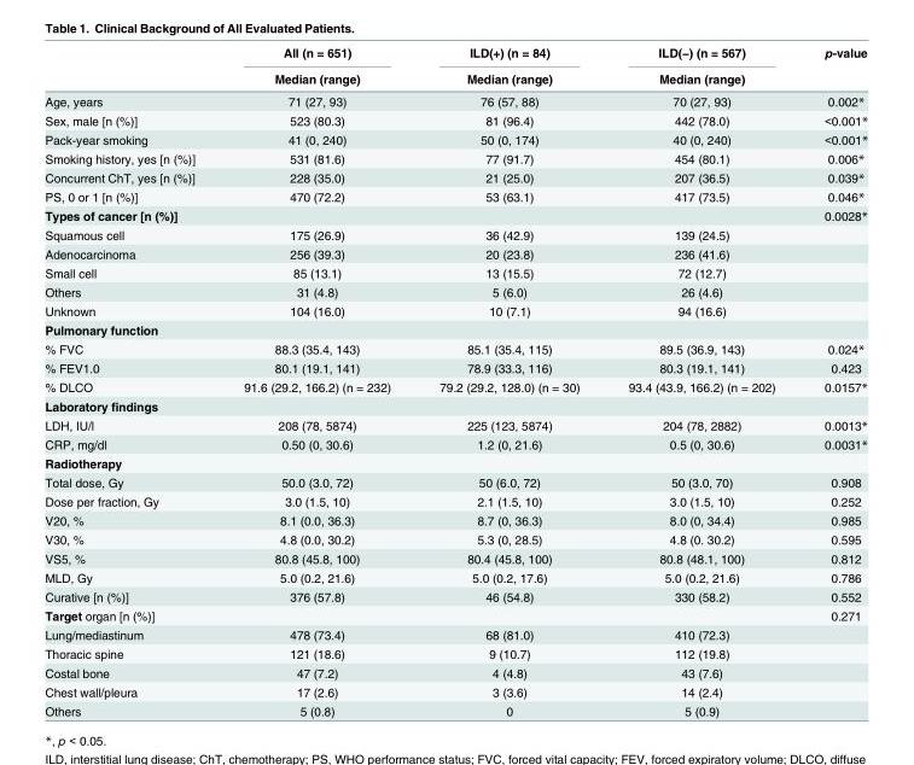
<table><thead><tr><td rowspan="2"></td><td rowspan="2">All (n = 651) Median (range)</td><td rowspan="2">ILD(+) (n = 84) Median (range)</td><td rowspan="2">ILD(−) (n = 567) Median (range)</td><td rowspan="2">p-value</td></tr><tr></tr></thead><tbody><tr><td>Age, years</td><td>71 (27, 93)</td><td>76 (57, 88)</td><td>70 (27, 93)</td><td>0.002*</td></tr><tr><td>Sex, male [n (%)]</td><td>523 (80.3)</td><td>81 (96.4)</td><td>442 (78.0)</td><td>&lt;0.001*</td></tr><tr><td>Pack-year smoking</td><td>41 (0, 240)</td><td>50 (0, 174)</td><td>40 (0, 240)</td><td>&lt;0.001*</td></tr><tr><td>Smoking history, yes [n (%)]</td><td>531 (81.6)</td><td>77 (91.7)</td><td>454 (80.1)</td><td>0.006*</td></tr><tr><td>Concurrent ChT, yes [n (%)]</td><td>228 (35.0)</td><td>21 (25.0)</td><td>207 (36.5)</td><td>0.039*</td></tr><tr><td>PS, 0 or 1 [n (%)]</td><td>470 (72.2)</td><td>53 (63.1)</td><td>417 (73.5)</td><td>0.046*</td></tr><tr><td>Types of cancer [n (%)]</td><td></td><td></td><td></td><td>0.0028*</td></tr><tr><td>Squamous cell</td><td>175 (26.9)</td><td>36 (42.9)</td><td>139 (24.5)</td><td></td></tr><tr><td>Adenocarcinoma</td><td>256 (39.3)</td><td>20 (23.8)</td><td>236 (41.6)</td><td></td></tr><tr><td>Small cell</td><td>85 (13.1)</td><td>13 (15.5)</td><td>72 (12.7)</td><td></td></tr><tr><td>Others</td><td>31 (4.8)</td><td>5 (6.0)</td><td>26 (4.6)</td><td></td></tr><tr><td>Unknown</td><td>104 (16.0)</td><td>10 (7.1)</td><td>94 (16.6)</td><td></td></tr><tr><td colspan="5">Pulmonary function</td></tr><tr><td>% FVC</td><td>88.3 (35.4, 143)</td><td>85.1 (35.4, 115)</td><td>89.5 (36.9, 143)</td><td>0.024*</td></tr><tr><td>% FEV1.0</td><td>80.1 (19.1, 141)</td><td>78.9 (33.3, 116)</td><td>80.3 (19.1, 141)</td><td>0.423</td></tr><tr><td>% DLCO</td><td>91.6 (29.2, 166.2) (n = 232)</td><td>79.2 (29.2, 128.0) (n = 30)</td><td>93.4 (43.9, 166.2) (n = 202)</td><td>0.0157*</td></tr><tr><td colspan="5">Laboratory findings</td></tr><tr><td>LDH, IU/l</td><td>208 (78, 5874)</td><td>225 (123, 5874)</td><td>204 (78, 2882)</td><td>0.0013*</td></tr><tr><td>CRP, mg/dl</td><td>0.50 (0, 30.6)</td><td>1.2 (0, 21.6)</td><td>0.5 (0, 30.6)</td><td>0.0031*</td></tr><tr><td colspan="5">Radiotherapy</td></tr><tr><td>Total dose, Gy</td><td>50.0 (3.0, 72)</td><td>50 (6.0, 72)</td><td>50 (3.0, 70)</td><td>0.908</td></tr><tr><td>Dose per fraction, Gy</td><td>3.0 (1.5, 10)</td><td>2.1 (1.5, 10)</td><td>3.0 (1.5, 10)</td><td>0.252</td></tr><tr><td>V20, %</td><td>8.1 (0.0, 36.3)</td><td>8.7 (0, 36.3)</td><td>8.0 (0, 34.4)</td><td>0.985</td></tr><tr><td>V30, %</td><td>4.8 (0.0, 30.2)</td><td>5.3 (0, 28.5)</td><td>4.8 (0. 30.2)</td><td>0.595</td></tr><tr><td>VS5, %</td><td>80.8 (45.8, 100)</td><td>80.4 (45.8, 100)</td><td>80.8 (48.1, 100)</td><td>0.812</td></tr><tr><td>MLD, Gy</td><td>5.0 (0.2, 21.6)</td><td>5.0 (0.2, 17.6)</td><td>5.0 (0.2, 21.6)</td><td>0.786</td></tr><tr><td>Curative [n (%)]</td><td>376 (57.8)</td><td>46 (54.8)</td><td>330 (58.2)</td><td>0.552</td></tr><tr><td>Target organ [n (%)]</td><td></td><td></td><td></td><td>0.271</td></tr><tr><td>Lung/mediastinum</td><td>478 (73.4)</td><td>68 (81.0)</td><td>410 (72.3)</td><td></td></tr><tr><td>Thoracic spine</td><td>121 (18.6)</td><td>9 (10.7)</td><td>112 (19.8)</td><td></td></tr><tr><td>Costal bone</td><td>47 (7.2)</td><td>4 (4.8)</td><td>43 (7.6)</td><td></td></tr><tr><td>Chest wall/pleura</td><td>17 (2.6)</td><td>3 (3.6)</td><td>14 (2.4)</td><td></td></tr><tr><td>Others</td><td>5 (0.8)</td><td>0</td><td>5 (0.9)</td><td></td></tr></tbody></table>